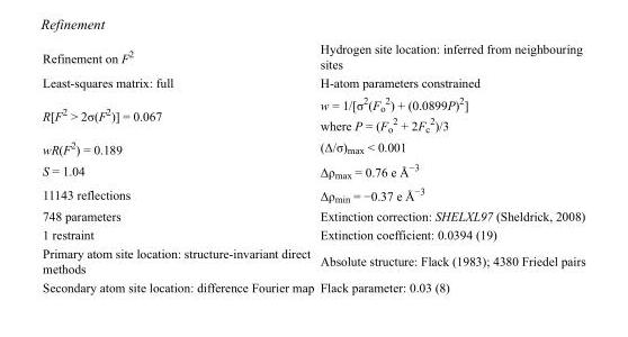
<table><tbody><tr><td>Refinement on F<sup>2</sup></td><td>Hydrogen site location: inferred from neighbouring sites</td></tr><tr><td>Least-squares matrix: full</td><td>H-atom parameters constrained</td></tr><tr><td>R[F<sup>2</sup> &gt; 2σ(F<sup>2</sup>)] = 0.067</td><td>w = 1/[σ<sup>2</sup>(F<sub>o</sub> <sup>2</sup>) + (0.0899P)<sup>2</sup>] where P = (F<sub>o</sub> <sup>2</sup> + 2F<sub>c</sub> <sup>2</sup>)/3</td></tr><tr><td>wR(F<sup>2</sup>) = 0.189</td><td>(Δ/σ)<sub>max</sub> &lt; 0.001</td></tr><tr><td>S = 1.04</td><td>Δρ<sub>max</sub> = 0.76 e Å<sup>−3</sup></td></tr><tr><td>11143 reflections</td><td>Δρ<sub>min</sub> = −0.37 e Å<sup>−3</sup></td></tr><tr><td>748 parameters</td><td>Extinction correction: SHELXL97 (Sheldrick, 2008)</td></tr><tr><td>1 restraint</td><td>Extinction coefficient: 0.0394 (19)</td></tr><tr><td>Primary atom site location: structure-invariant direct methods</td><td>Absolute structure: Flack (1983); 4380 Friedel pairs</td></tr><tr><td>Secondary atom site location: difference Fourier map</td><td>Flack parameter: 0.03 (8)</td></tr></tbody></table>